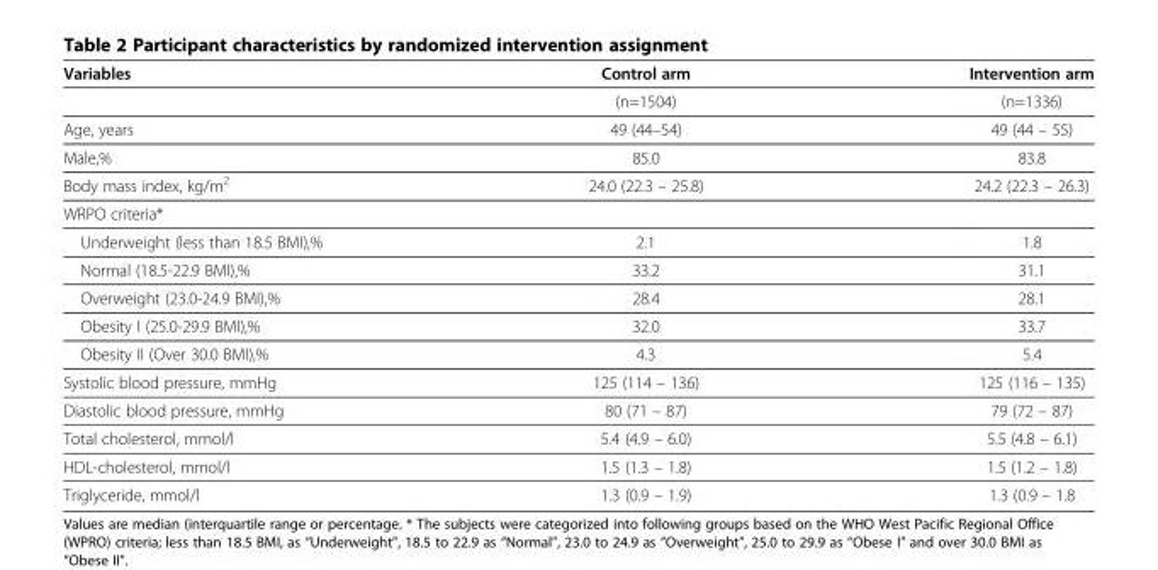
<table><thead><tr><td>Variables</td><td>Control arm</td><td>Intervention arm</td></tr></thead><tbody><tr><td></td><td>(n=1504)</td><td>(n=1336)</td></tr><tr><td>Age, years</td><td>49 (44–54)</td><td>49 (44 – 55)</td></tr><tr><td>Male,%</td><td>85.0</td><td>83.8</td></tr><tr><td>Body mass index, kg/m<sup>2</sup></td><td>24.0 (22.3 – 25.8)</td><td>24.2 (22.3 – 26.3)</td></tr><tr><td colspan="3">WRPO criteria*</td></tr><tr><td>Underweight (less than 18.5 BMI),%</td><td>2.1</td><td>1.8</td></tr><tr><td>Normal (18.5-22.9 BMI),%</td><td>33.2</td><td>31.1</td></tr><tr><td>Overweight (23.0-24.9 BMI),%</td><td>28.4</td><td>28.1</td></tr><tr><td>Obesity I (25.0-29.9 BMI),%</td><td>32.0</td><td>33.7</td></tr><tr><td>Obesity II (Over 30.0 BMI),%</td><td>4.3</td><td>5.4</td></tr><tr><td>Systolic blood pressure, mmHg</td><td>125 (114 – 136)</td><td>125 (116 – 135)</td></tr><tr><td>Diastolic blood pressure, mmHg</td><td>80 (71 – 87)</td><td>79 (72 – 87)</td></tr><tr><td>Total cholesterol, mmol/l</td><td>5.4 (4.9 – 6.0)</td><td>5.5 (4.8 – 6.1)</td></tr><tr><td>HDL-cholesterol, mmol/l</td><td>1.5 (1.3 – 1.8)</td><td>1.5 (1.2 – 1.8)</td></tr><tr><td>Triglyceride, mmol/l</td><td>1.3 (0.9 – 1.9)</td><td>1.3 (0.9 – 1.8</td></tr></tbody></table>